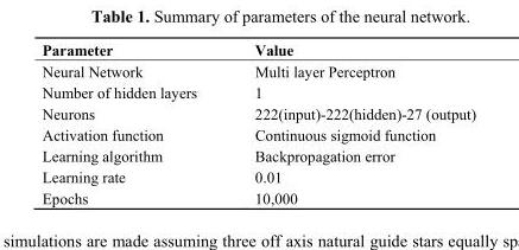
<table><thead><tr><td>Parameter</td><td>Value</td></tr></thead><tbody><tr><td>Neural Network</td><td>Multi layer Perceptron</td></tr><tr><td>Number of hidden layers</td><td>1</td></tr><tr><td>Neurons</td><td>222(input)-222(hidden)-27 (output)</td></tr><tr><td>Activation function</td><td>Continuous sigmoid function</td></tr><tr><td>Learning algorithm</td><td>Backpropagation error</td></tr><tr><td>Learning rate</td><td>0.01</td></tr><tr><td>Epochs</td><td>10,000</td></tr></tbody></table>